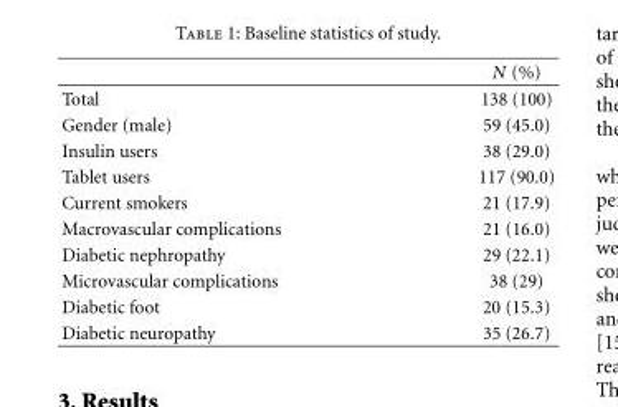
<table><thead><tr><td></td><td>N (%)</td></tr></thead><tbody><tr><td>Total</td><td>138 (100)</td></tr><tr><td>Gender (male)</td><td>59 (45.0)</td></tr><tr><td>Insulin users</td><td>38 (29.0)</td></tr><tr><td>Tablet users</td><td>117 (90.0)</td></tr><tr><td>Current smokers</td><td>21 (17.9)</td></tr><tr><td>Macrovascular complications</td><td>21 (16.0)</td></tr><tr><td>Diabetic nephropathy</td><td>29 (22.1)</td></tr><tr><td>Microvascular complications</td><td>38 (29)</td></tr><tr><td>Diabetic foot</td><td>20 (15.3)</td></tr><tr><td>Diabetic neuropathy</td><td>35 (26.7)</td></tr></tbody></table>